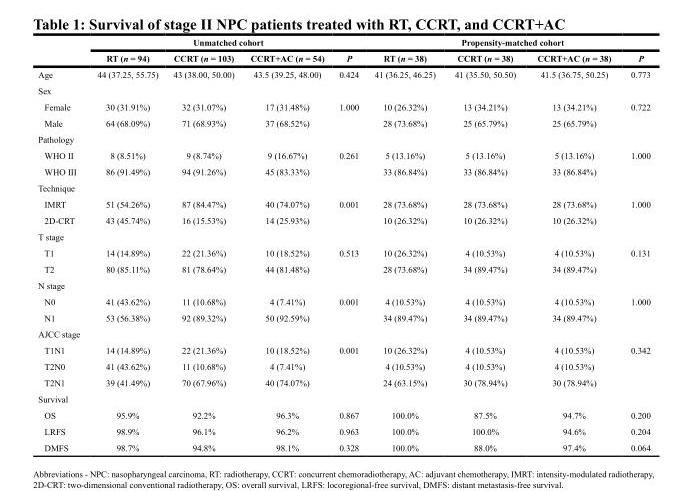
<table><thead><tr><td rowspan="2"></td><td colspan="4">Unmatched cohort</td><td colspan="4">Propensity-matched cohort</td></tr><tr><td>RT (n = 94)</td><td>CCRT (n = 103)</td><td>CCRT+AC (n = 54)</td><td>P</td><td>RT (n = 38)</td><td>CCRT (n = 38)</td><td>CCRT+AC (n = 38)</td><td>P</td></tr></thead><tbody><tr><td>Age</td><td>44 (37.25, 55.75)</td><td>43 (38.00, 50.00)</td><td>43.5 (39.25, 48.00)</td><td>0.424</td><td>41 (36.25, 46.25)</td><td>41 (35.50, 50.50)</td><td>41.5 (36.75, 50.25)</td><td>0.773</td></tr><tr><td colspan="9">Sex</td></tr><tr><td>Female</td><td>30 (31.91%)</td><td>32 (31.07%)</td><td>17 (31.48%)</td><td>1.000</td><td>10 (26.32%)</td><td>13 (34.21%)</td><td>13 (34.21%)</td><td>0.722</td></tr><tr><td>Male</td><td>64 (68.09%)</td><td>71 (68.93%)</td><td>37 (68.52%)</td><td></td><td>28 (73.68%)</td><td>25 (65.79%)</td><td>25 (65.79%)</td><td></td></tr><tr><td colspan="9">Pathology</td></tr><tr><td>WHO II</td><td>8 (8.51%)</td><td>9 (8.74%)</td><td>9 (16.67%)</td><td>0.261</td><td>5 (13.16%)</td><td>5 (13.16%)</td><td>5 (13.16%)</td><td>1.000</td></tr><tr><td>WHO III</td><td>86 (91.49%)</td><td>94 (91.26%)</td><td>45 (83.33%)</td><td></td><td>33 (86.84%)</td><td>33 (86.84%)</td><td>33 (86.84%)</td><td></td></tr><tr><td colspan="9">Technique</td></tr><tr><td>IMRT</td><td>51 (54.26%)</td><td>87 (84.47%)</td><td>40 (74.07%)</td><td>0.001</td><td>28 (73.68%)</td><td>28 (73.68%)</td><td>28 (73.68%)</td><td>1.000</td></tr><tr><td>2D-CRT</td><td>43 (45.74%)</td><td>16 (15.53%)</td><td>14 (25.93%)</td><td></td><td>10 (26.32%)</td><td>10 (26.32%)</td><td>10 (26.32%)</td><td></td></tr><tr><td colspan="9">T stage</td></tr><tr><td>T1</td><td>14 (14.89%)</td><td>22 (21.36%)</td><td>10 (18.52%)</td><td>0.513</td><td>10 (26.32%)</td><td>4 (10.53%)</td><td>4 (10.53%)</td><td>0.131</td></tr><tr><td>T2</td><td>80 (85.11%)</td><td>81 (78.64%)</td><td>44 (81.48%)</td><td></td><td>28 (73.68%)</td><td>34 (89.47%)</td><td>34 (89.47%)</td><td></td></tr><tr><td colspan="9">N stage</td></tr><tr><td>N0</td><td>41 (43.62%)</td><td>11 (10.68%)</td><td>4 (7.41%)</td><td>0.001</td><td>4 (10.53%)</td><td>4 (10.53%)</td><td>4 (10.53%)</td><td>1.000</td></tr><tr><td>N1</td><td>53 (56.38%)</td><td>92 (89.32%)</td><td>50 (92.59%)</td><td></td><td>34 (89.47%)</td><td>34 (89.47%)</td><td>34 (89.47%)</td><td></td></tr><tr><td colspan="9">AJCC stage</td></tr><tr><td>T1N1</td><td>14 (14.89%)</td><td>22 (21.36%)</td><td>10 (18.52%)</td><td>0.001</td><td>10 (26.32%)</td><td>4 (10.53%)</td><td>4 (10.53%)</td><td>0.342</td></tr><tr><td>T2N0</td><td>41 (43.62%)</td><td>11 (10.68%)</td><td>4 (7.41%)</td><td></td><td>4 (10.53%)</td><td>4 (10.53%)</td><td>4 (10.53%)</td><td></td></tr><tr><td>T2N1</td><td>39 (41.49%)</td><td>70 (67.96%)</td><td>40 (74.07%)</td><td></td><td>24 (63.15%)</td><td>30 (78.94%)</td><td>30 (78.94%)</td><td></td></tr><tr><td colspan="9">Survival</td></tr><tr><td>OS</td><td>95.9%</td><td>92.2%</td><td>96.3%</td><td>0.867</td><td>100.0%</td><td>87.5%</td><td>94.7%</td><td>0.200</td></tr><tr><td>LRFS</td><td>98.9%</td><td>96.1%</td><td>96.2%</td><td>0.963</td><td>100.0%</td><td>100.0%</td><td>94.6%</td><td>0.204</td></tr><tr><td>DMFS</td><td>98.7%</td><td>94.8%</td><td>98.1%</td><td>0.328</td><td>100.0%</td><td>88.0%</td><td>97.4%</td><td>0.064</td></tr></tbody></table>